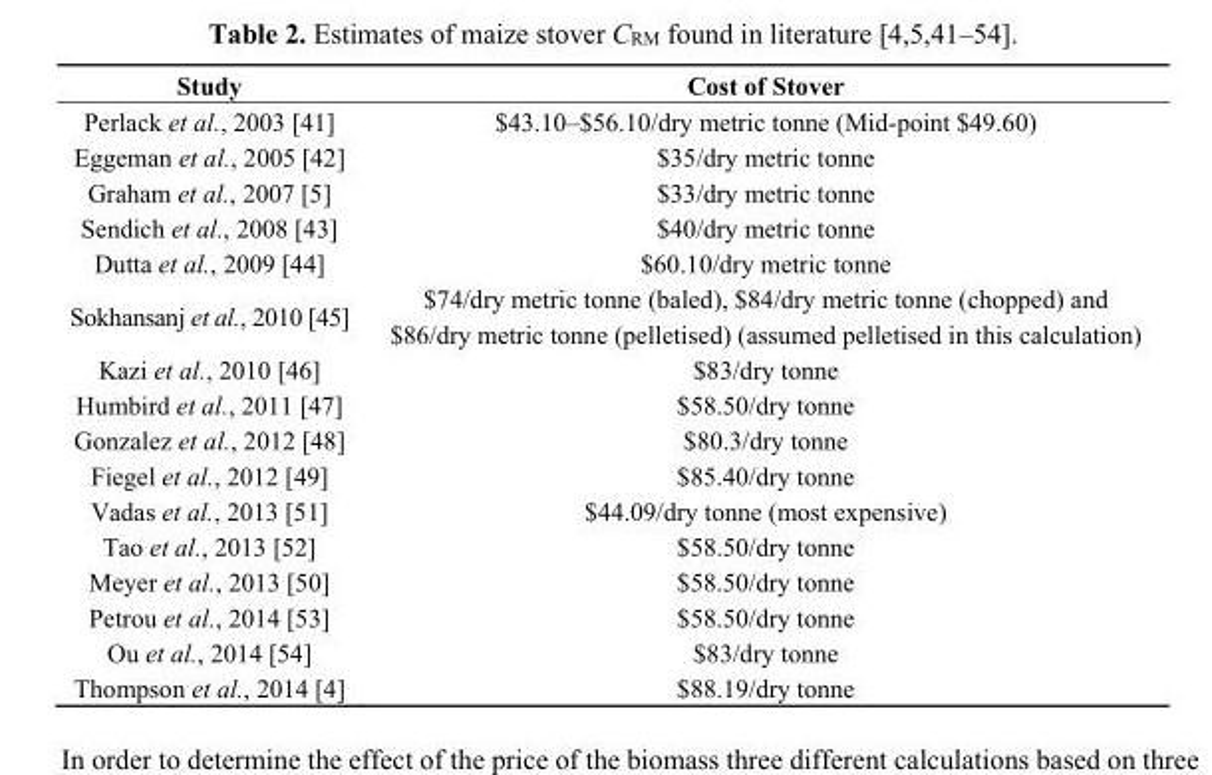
<table><thead><tr><td>Study</td><td>Cost of Stover</td></tr></thead><tbody><tr><td>Perlack et al., 2003 [41]</td><td>$43.10–$56.10/dry metric tonne (Mid-point $49.60)</td></tr><tr><td>Eggeman et al., 2005 [42]</td><td>$35/dry metric tonne</td></tr><tr><td>Graham et al., 2007 [5]</td><td>$33/dry metric tonne</td></tr><tr><td>Sendich et al., 2008 [43]</td><td>$40/dry metric tonne</td></tr><tr><td>Dutta et al., 2009 [44]</td><td>$60.10/dry metric tonne</td></tr><tr><td>Sokhansanj et al., 2010 [45]</td><td>$74/dry metric tonne (baled), $84/dry metric tonne (chopped) and $86/dry metric tonne (pelletised) (assumed pelletised in this calculation)</td></tr><tr><td>Kazi et al., 2010 [46]</td><td>$83/dry tonne</td></tr><tr><td>Humbird et al., 2011 [47]</td><td>$58.50/dry tonne</td></tr><tr><td>Gonzalez et al., 2012 [48]</td><td>$80.3/dry tonne</td></tr><tr><td>Fiegel et al., 2012 [49]</td><td>$85.40/dry tonne</td></tr><tr><td>Vadas et al., 2013 [51]</td><td>$44.09/dry tonne (most expensive)</td></tr><tr><td>Tao et al., 2013 [52]</td><td>$58.50/dry tonne</td></tr><tr><td>Meyer et al., 2013 [50]</td><td>$58.50/dry tonne</td></tr><tr><td>Petrou et al., 2014 [53]</td><td>$58.50/dry tonne</td></tr><tr><td>Ou et al., 2014 [54]</td><td>$83/dry tonne</td></tr><tr><td>Thompson et al., 2014 [4]</td><td>$88.19/dry tonne</td></tr></tbody></table>